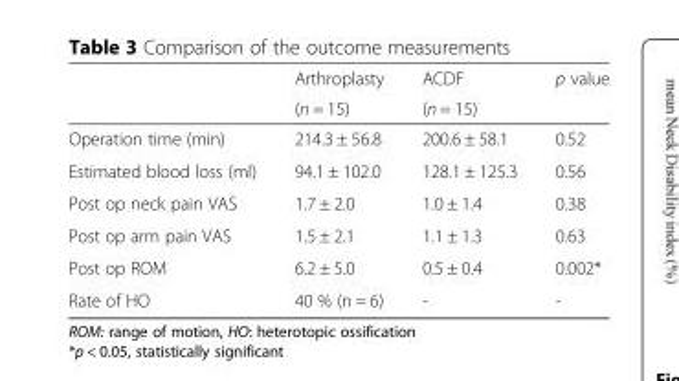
<table><thead><tr><td rowspan="2"></td><td rowspan="2">Arthroplasty (n = 15)</td><td rowspan="2">ACDF (n = 15)</td><td rowspan="2">p value</td></tr><tr></tr></thead><tbody><tr><td>Operation time (min)</td><td>214.3 ± 56.8</td><td>200.6 ± 58.1</td><td>0.52</td></tr><tr><td>Estimated blood loss (ml)</td><td>94.1 ± 102.0</td><td>128.1 ± 125.3</td><td>0.56</td></tr><tr><td>Post op neck pain VAS</td><td>1.7 ± 2.0</td><td>1.0 ± 1.4</td><td>0.38</td></tr><tr><td>Post op arm pain VAS</td><td>1.5 ± 2.1</td><td>1.1 ± 1.3</td><td>0.63</td></tr><tr><td>Post op ROM</td><td>6.2 ± 5.0</td><td>0.5 ± 0.4</td><td>0.002*</td></tr><tr><td>Rate of HO</td><td>40 % (n = 6)</td><td>-</td><td>-</td></tr></tbody></table>